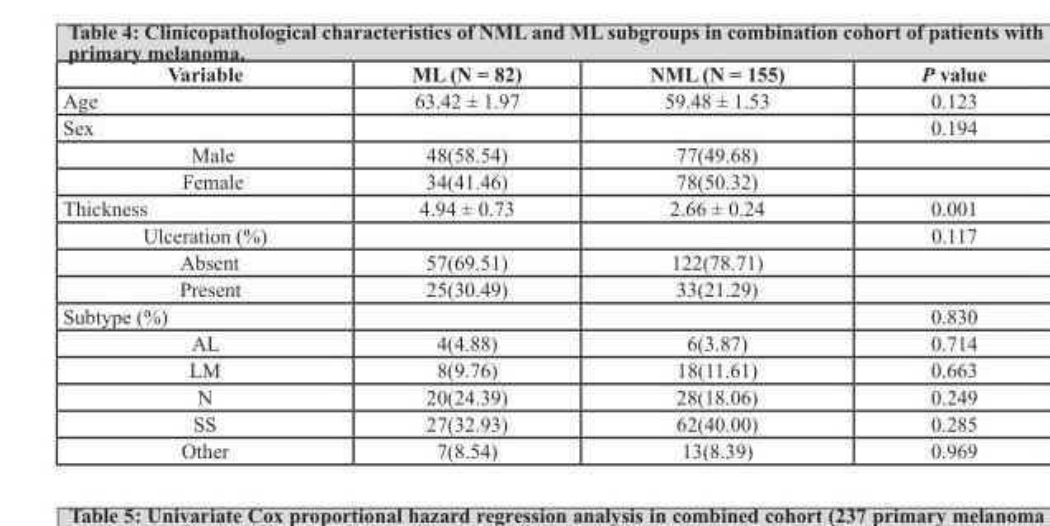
<table><thead><tr><td>Variable</td><td>ML (N = 82)</td><td>NML (N = 155)</td><td>P value</td></tr></thead><tbody><tr><td>Age</td><td>63.42 ± 1.97</td><td>59.48 ± 1.53</td><td>0.123</td></tr><tr><td>Sex</td><td></td><td></td><td>0.194</td></tr><tr><td>Male</td><td>48(58.54)</td><td>77(49.68)</td><td></td></tr><tr><td>Female</td><td>34(41.46)</td><td>78(50.32)</td><td></td></tr><tr><td>Thickness</td><td>4.94 ± 0.73</td><td>2.66 ± 0.24</td><td>0.001</td></tr><tr><td>Ulceration (%)</td><td></td><td></td><td>0.117</td></tr><tr><td>Absent</td><td>57(69.51)</td><td>122(78.71)</td><td></td></tr><tr><td>Present</td><td>25(30.49)</td><td>33(21.29)</td><td></td></tr><tr><td>Subtype (%)</td><td></td><td></td><td>0.830</td></tr><tr><td>AL</td><td>4(4.88)</td><td>6(3.87)</td><td>0.714</td></tr><tr><td>LM</td><td>8(9.76)</td><td>18(11.61)</td><td>0.663</td></tr><tr><td>N</td><td>20(24.39)</td><td>28(18.06)</td><td>0.249</td></tr><tr><td>SS</td><td>27(32.93)</td><td>62(40.00)</td><td>0.285</td></tr><tr><td>Other</td><td>7(8.54)</td><td>13(8.39)</td><td>0.969</td></tr></tbody></table>